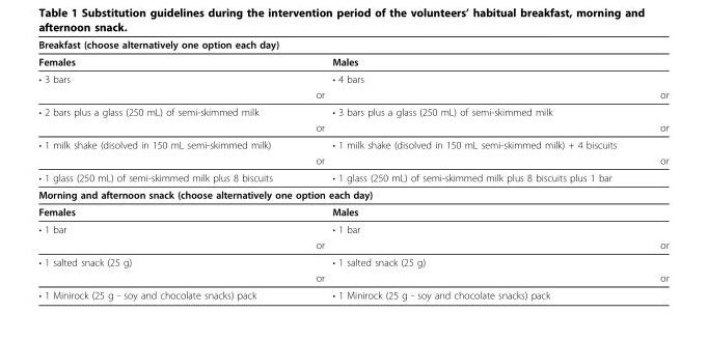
<table><thead><tr><td colspan="2">Breakfast (choose alternatively one option each day)</td></tr><tr><td>Females</td><td>Males</td></tr></thead><tbody><tr><td>• 3 bars</td><td>• 4 bars</td></tr><tr><td>or</td><td>or</td></tr><tr><td>• 2 bars plus a glass (250 mL) of semi-skimmed milk</td><td>• 3 bars plus a glass (250 mL) of semi-skimmed milk</td></tr><tr><td>or</td><td>or</td></tr><tr><td>• 1 milk shake (disolved in 150 mL semi-skimmed milk)</td><td>• 1 milk shake (disolved in 150 mL semi-skimmed milk) + 4 biscuits</td></tr><tr><td>or</td><td>or</td></tr><tr><td>• 1 glass (250 mL) of semi-skimmed milk plus 8 biscuits</td><td>• 1 glass (250 mL) of semi-skimmed milk plus 8 biscuits plus 1 bar</td></tr><tr><td colspan="2">Morning and afternoon snack (choose alternatively one option each day)</td></tr><tr><td>Females</td><td>Males</td></tr><tr><td>• 1 bar</td><td>• 1 bar</td></tr><tr><td>or</td><td>or</td></tr><tr><td>• 1 salted snack (25 g)</td><td>• 1 salted snack (25 g)</td></tr><tr><td>or</td><td>or</td></tr><tr><td>• 1 Minirock (25 g - soy and chocolate snacks) pack</td><td>• 1 Minirock (25 g - soy and chocolate snacks) pack</td></tr></tbody></table>